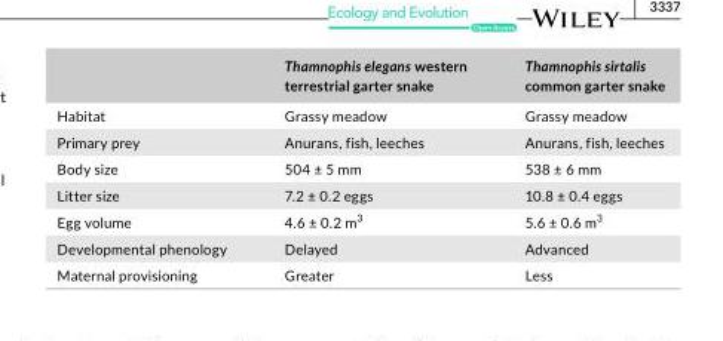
<table><thead><tr><td></td><td>Thamnophis elegans western terrestrial garter snake</td><td>Thamnophis sirtalis common garter snake</td></tr></thead><tbody><tr><td>Habitat</td><td>Grassy meadow</td><td>Grassy meadow</td></tr><tr><td>Primary prey</td><td>Anurans, fish, leeches</td><td>Anurans, fish, leeches</td></tr><tr><td>Body size</td><td>504 ± 5 mm</td><td>538 ± 6 mm</td></tr><tr><td>Litter size</td><td>7.2 ± 0.2 eggs</td><td>10.8 ± 0.4 eggs</td></tr><tr><td>Egg volume</td><td>4.6 ± 0.2 m<sup>3</sup></td><td>5.6 ± 0.6 m<sup>3</sup></td></tr><tr><td>Developmental phenology</td><td>Delayed</td><td>Advanced</td></tr><tr><td>Maternal provisioning</td><td>Greater</td><td>Less</td></tr></tbody></table>